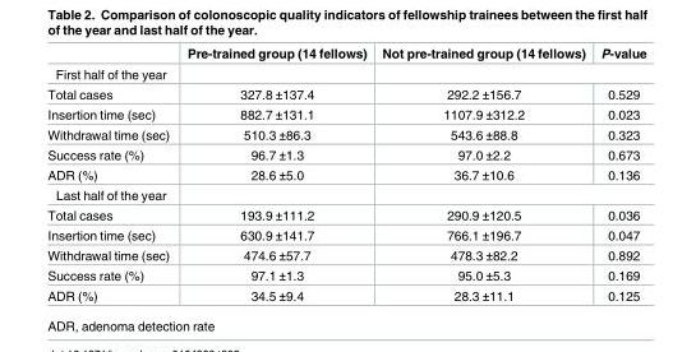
<table><thead><tr><td></td><td>Pre-trained group (14 fellows)</td><td>Not pre-trained group (14 fellows)</td><td>P-value</td></tr></thead><tbody><tr><td colspan="4">First half of the year</td></tr><tr><td>Total cases</td><td>327.8 ±137.4</td><td>292.2 ±156.7</td><td>0.529</td></tr><tr><td>Insertion time (sec)</td><td>882.7 ±131.1</td><td>1107.9 ±312.2</td><td>0.023</td></tr><tr><td>Withdrawal time (sec)</td><td>510.3 ±86.3</td><td>543.6 ±88.8</td><td>0.323</td></tr><tr><td>Success rate (%)</td><td>96.7 ±1.3</td><td>97.0 ±2.2</td><td>0.673</td></tr><tr><td>ADR (%)</td><td>28.6 ±5.0</td><td>36.7 ±10.6</td><td>0.136</td></tr><tr><td colspan="4">Last half of the year</td></tr><tr><td>Total cases</td><td>193.9 ±111.2</td><td>290.9 ±120.5</td><td>0.036</td></tr><tr><td>Insertion time (sec)</td><td>630.9 ±141.7</td><td>766.1 ±196.7</td><td>0.047</td></tr><tr><td>Withdrawal time (sec)</td><td>474.6 ±57.7</td><td>478.3 ±82.2</td><td>0.892</td></tr><tr><td>Success rate (%)</td><td>97.1 ±1.3</td><td>95.0 ±5.3</td><td>0.169</td></tr><tr><td>ADR (%)</td><td>34.5 ±9.4</td><td>28.3 ±11.1</td><td>0.125</td></tr></tbody></table>